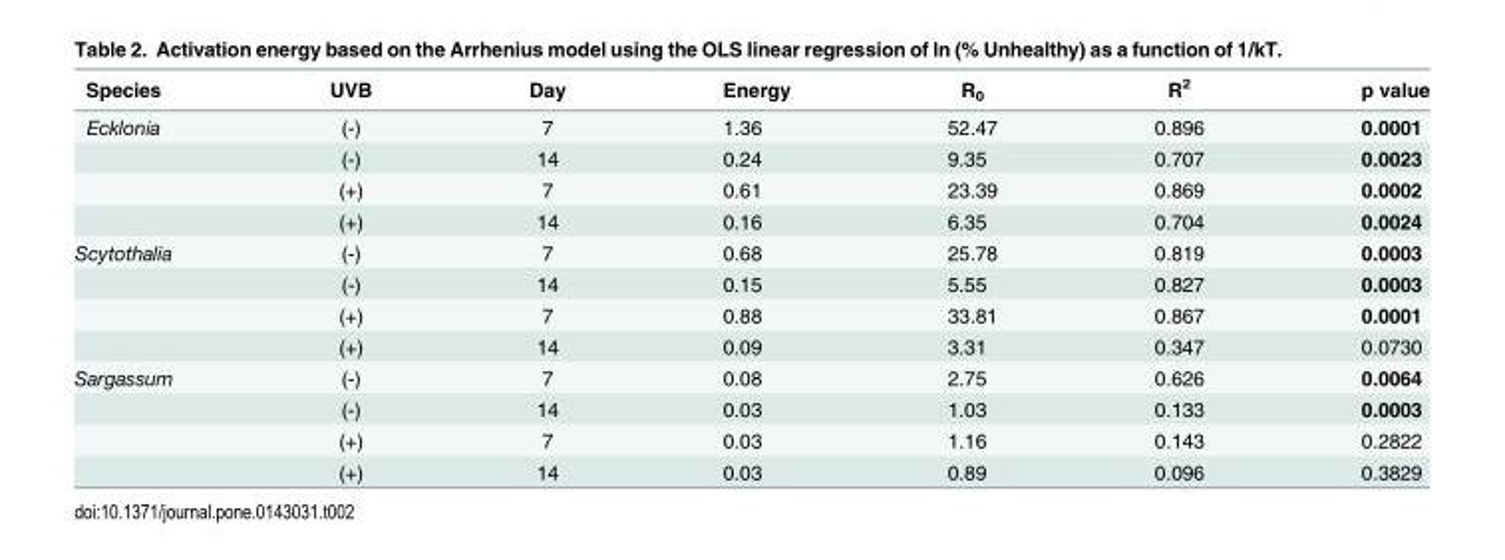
<table><thead><tr><td>Species</td><td>UVB</td><td>Day</td><td>Energy</td><td>R<sub>0</sub></td><td>R<sup>2</sup></td><td>p value</td></tr></thead><tbody><tr><td rowspan="4">Ecklonia</td><td>(-)</td><td>7</td><td>1.36</td><td>52.47</td><td>0.896</td><td>0.0001</td></tr><tr><td>(-)</td><td>14</td><td>0.24</td><td>9.35</td><td>0.707</td><td>0.0023</td></tr><tr><td>(+)</td><td>7</td><td>0.61</td><td>23.39</td><td>0.869</td><td>0.0002</td></tr><tr><td>(+)</td><td>14</td><td>0.16</td><td>6.35</td><td>0.704</td><td>0.0024</td></tr><tr><td rowspan="4">Scytothalia</td><td>(-)</td><td>7</td><td>0.68</td><td>25.78</td><td>0.819</td><td>0.0003</td></tr><tr><td>(-)</td><td>14</td><td>0.15</td><td>5.55</td><td>0.827</td><td>0.0003</td></tr><tr><td>(+)</td><td>7</td><td>0.88</td><td>33.81</td><td>0.867</td><td>0.0001</td></tr><tr><td>(+)</td><td>14</td><td>0.09</td><td>3.31</td><td>0.347</td><td>0.0730</td></tr><tr><td rowspan="4">Sargassum</td><td>(-)</td><td>7</td><td>0.08</td><td>2.75</td><td>0.626</td><td>0.0064</td></tr><tr><td>(-)</td><td>14</td><td>0.03</td><td>1.03</td><td>0.133</td><td>0.0003</td></tr><tr><td>(+)</td><td>7</td><td>0.03</td><td>1.16</td><td>0.143</td><td>0.2822</td></tr><tr><td>(+)</td><td>14</td><td>0.03</td><td>0.89</td><td>0.096</td><td>0.3829</td></tr></tbody></table>